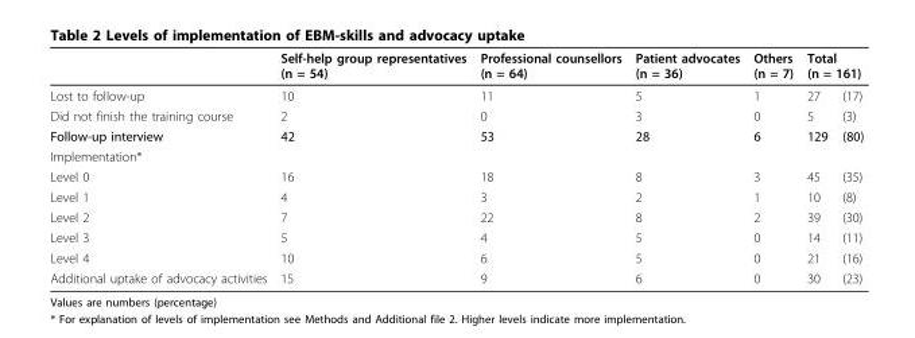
<table><thead><tr><td rowspan="2">Lost to follow-up</td><td rowspan="2">Self-help group representatives (n = 54) 10</td><td rowspan="2">Professional counsellors (n = 64) 11</td><td rowspan="2">Patient advocates (n = 36) 5</td><td rowspan="2">Others (n = 7) 1</td><td colspan="2">Total (n = 161)</td></tr><tr><td>27</td><td>(17)</td></tr></thead><tbody><tr><td>Did not finish the training course</td><td>2</td><td>0</td><td>3</td><td>0</td><td>5</td><td>(3)</td></tr><tr><td>Follow-up interview</td><td>42</td><td>53</td><td>28</td><td>6</td><td>129</td><td>(80)</td></tr><tr><td colspan="7">Implementation*</td></tr><tr><td>Level 0</td><td>16</td><td>18</td><td>8</td><td>3</td><td>45</td><td>(35)</td></tr><tr><td>Level 1</td><td>4</td><td>3</td><td>2</td><td>1</td><td>10</td><td>(8)</td></tr><tr><td>Level 2</td><td>7</td><td>22</td><td>8</td><td>2</td><td>39</td><td>(30)</td></tr><tr><td>Level 3</td><td>5</td><td>4</td><td>5</td><td>0</td><td>14</td><td>(11)</td></tr><tr><td>Level 4</td><td>10</td><td>6</td><td>5</td><td>0</td><td>21</td><td>(16)</td></tr><tr><td>Additional uptake of advocacy activities</td><td>15</td><td>9</td><td>6</td><td>0</td><td>30</td><td>(23)</td></tr></tbody></table>